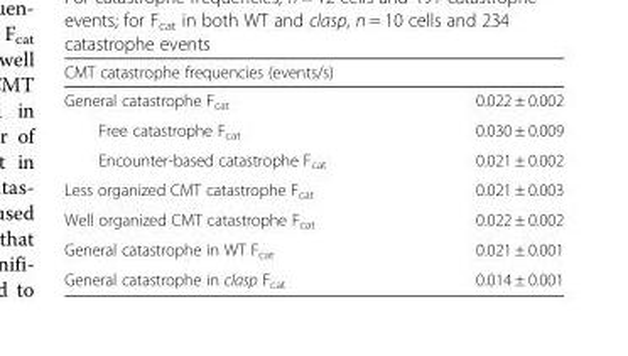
<table><thead><tr><td colspan="2">CMT catastrophe frequencies (events/s)</td></tr><tr><td>General catastrophe F<sub>cat</sub></td><td>0.022 ± 0.002</td></tr></thead><tbody><tr><td>Free catastrophe F<sub>cat</sub></td><td>0.030 ± 0.009</td></tr><tr><td>Encounter-based catastrophe F<sub>cat</sub></td><td>0.021 ± 0.002</td></tr><tr><td>Less organized CMT catastrophe F<sub>cat</sub></td><td>0.021 ± 0.003</td></tr><tr><td>Well organized CMT catastrophe F<sub>cat</sub></td><td>0.022 ± 0.002</td></tr><tr><td>General catastrophe in WT F<sub>cat</sub></td><td>0.021 ± 0.001</td></tr><tr><td>General catastrophe in clasp F<sub>cat</sub></td><td>0.014 ± 0.001</td></tr></tbody></table>